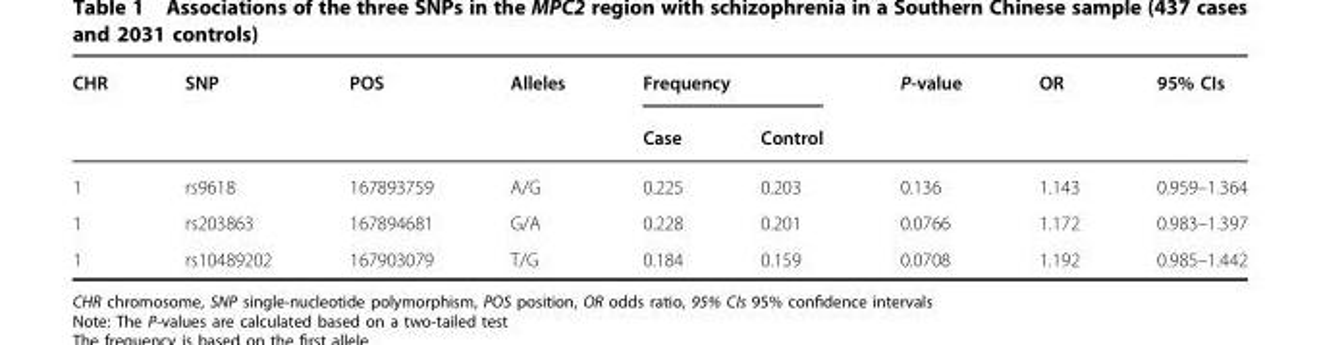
<table><thead><tr><td rowspan="2">CHR</td><td rowspan="2">SNP</td><td rowspan="2">POS</td><td rowspan="2">Alleles</td><td colspan="2">Frequency</td><td rowspan="2">P-value</td><td rowspan="2">OR</td><td rowspan="2">95% CIs</td></tr><tr><td>Case</td><td>Control</td></tr></thead><tbody><tr><td>1</td><td>rs9618</td><td>167893759</td><td>A/G</td><td>0.225</td><td>0.203</td><td>0.136</td><td>1.143</td><td>0.959–1.364</td></tr><tr><td>1</td><td>rs203863</td><td>167894681</td><td>G/A</td><td>0.228</td><td>0.201</td><td>0.0766</td><td>1.172</td><td>0.983–1.397</td></tr><tr><td>1</td><td>rs10489202</td><td>167903079</td><td>T/G</td><td>0.184</td><td>0.159</td><td>0.0708</td><td>1.192</td><td>0.985–1.442</td></tr></tbody></table>